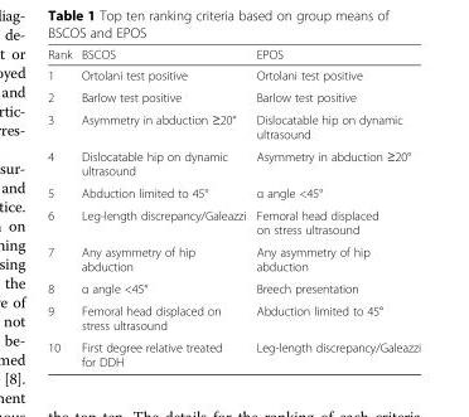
<table><thead><tr><td>Rank</td><td>BSCOS</td><td>EPOS</td></tr></thead><tbody><tr><td>1</td><td>Ortolani test positive</td><td>Ortolani test positive</td></tr><tr><td>2</td><td>Barlow test positive</td><td>Barlow test positive</td></tr><tr><td>3</td><td>Asymmetry in abduction ≥20°</td><td>Dislocatable hip on dynamic ultrasound</td></tr><tr><td>4</td><td>Dislocatable hip on dynamic ultrasound</td><td>Asymmetry in abduction ≥20°</td></tr><tr><td>5</td><td>Abduction limited to 45°</td><td>α angle &lt;45°</td></tr><tr><td>6</td><td>Leg-length discrepancy/Galeazzi</td><td>Femoral head displaced on stress ultrasound</td></tr><tr><td>7</td><td>Any asymmetry of hip abduction</td><td>Any asymmetry of hip abduction</td></tr><tr><td>8</td><td>α angle &lt;45°</td><td>Breech presentation</td></tr><tr><td>9</td><td>Femoral head displaced on stress ultrasound</td><td>Abduction limited to 45°</td></tr><tr><td>10</td><td>First degree relative treated for DDH</td><td>Leg-length discrepancy/Galeazzi</td></tr></tbody></table>